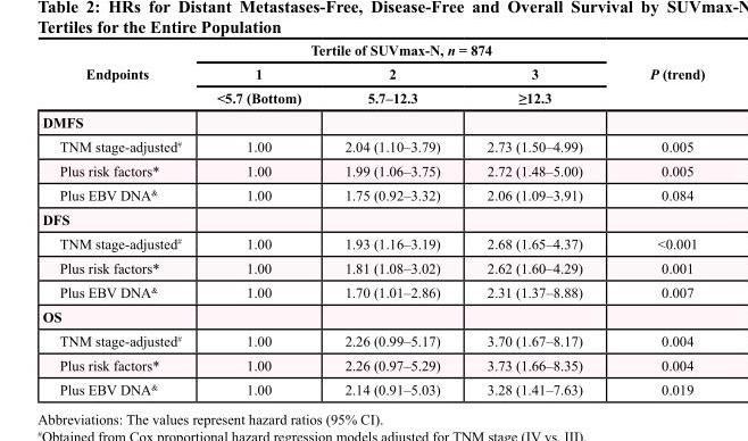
<table><thead><tr><td rowspan="3">Endpoints</td><td colspan="3">Tertile of SUVmax-N, n = 874</td><td rowspan="3">P (trend)</td></tr><tr><td rowspan="2">1 &lt;5.7 (Bottom)</td><td rowspan="2">2 5.7–12.3</td><td rowspan="2">3 ≥12.3</td></tr><tr></tr></thead><tbody><tr><td colspan="5">DMFS</td></tr><tr><td>TNM stage-adjusted<sup>#</sup></td><td>1.00</td><td>2.04 (1.10–3.79)</td><td>2.73 (1.50–4.99)</td><td>0.005</td></tr><tr><td>Plus risk factors*</td><td>1.00</td><td>1.99 (1.06–3.75)</td><td>2.72 (1.48–5.00)</td><td>0.005</td></tr><tr><td>Plus EBV DNA<sup>&amp;</sup></td><td>1.00</td><td>1.75 (0.92–3.32)</td><td>2.06 (1.09–3.91)</td><td>0.084</td></tr><tr><td colspan="5">DFS</td></tr><tr><td>TNM stage-adjusted<sup>#</sup></td><td>1.00</td><td>1.93 (1.16–3.19)</td><td>2.68 (1.65–4.37)</td><td>&lt;0.001</td></tr><tr><td>Plus risk factors*</td><td>1.00</td><td>1.81 (1.08–3.02)</td><td>2.62 (1.60–4.29)</td><td>0.001</td></tr><tr><td>Plus EBV DNA<sup>&amp;</sup></td><td>1.00</td><td>1.70 (1.01–2.86)</td><td>2.31 (1.37–8.88)</td><td>0.007</td></tr><tr><td colspan="5">OS</td></tr><tr><td>TNM stage-adjusted<sup>#</sup></td><td>1.00</td><td>2.26 (0.99–5.17)</td><td>3.70 (1.67–8.17)</td><td>0.004</td></tr><tr><td>Plus risk factors*</td><td>1.00</td><td>2.26 (0.97–5.29)</td><td>3.73 (1.66–8.35)</td><td>0.004</td></tr><tr><td>Plus EBV DNA<sup>&amp;</sup></td><td>1.00</td><td>2.14 (0.91–5.03)</td><td>3.28 (1.41–7.63)</td><td>0.019</td></tr></tbody></table>